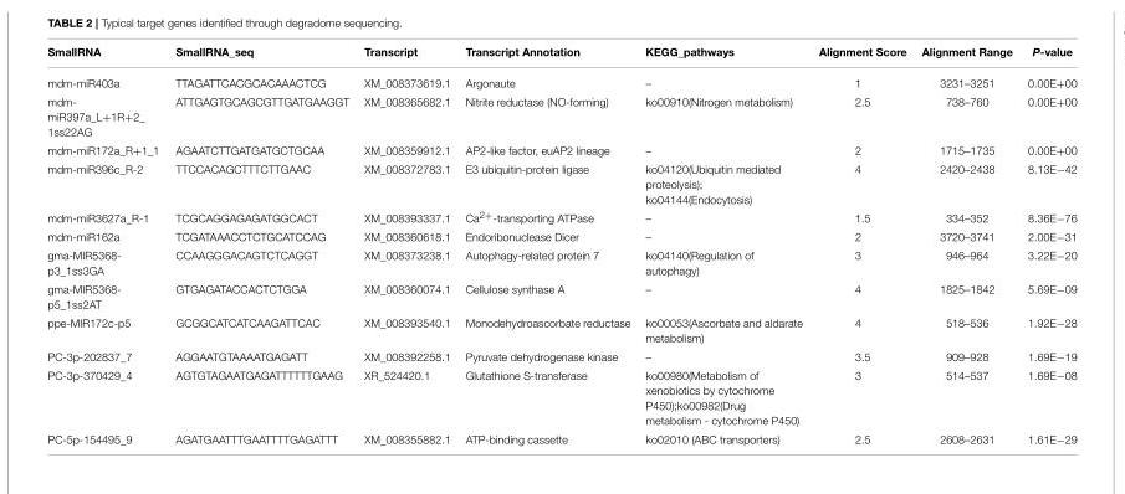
<table><thead><tr><td>SmallRNA</td><td>SmallRNA_seq</td><td>Transcript</td><td>Transcript Annotation</td><td>KEGG_pathways</td><td>Alignment Score</td><td>Alignment Range</td><td>P-value</td></tr></thead><tbody><tr><td>mdm-miR403a</td><td>TTAGATTCACGCACAAACTCG</td><td>XM_008373619.1</td><td>Argonaute</td><td>–</td><td>1</td><td>3231–3251</td><td>0.00E+00</td></tr><tr><td>mdm- miR397a_L+1R+2_ 1ss22AG</td><td>ATTGAGTGCAGCGTTGATGAAGGT</td><td>XM_008365682.1</td><td>Nitrite reductase (NO-forming)</td><td>ko00910(Nitrogen metabolism)</td><td>2.5</td><td>738–760</td><td>0.00E+00</td></tr><tr><td>mdm-miR172a_R+1_1</td><td>AGAATCTTGATGATGCTGCAA</td><td>XM_008359912.1</td><td>AP2-like factor, euAP2 lineage</td><td>–</td><td>2</td><td>1715–1735</td><td>0.00E+00</td></tr><tr><td>mdm-miR396c_R-2</td><td>TTCCACAGCTTTCTTGAAC</td><td>XM_008372783.1</td><td>E3 ubiquitin-protein ligase</td><td>ko04120(Ubiquitin mediated proteolysis); ko04144(Endocytosis)</td><td>4</td><td>2420–2438</td><td>8.13E−42</td></tr><tr><td>mdm-miR3627a_R-1</td><td>TCGCAGGAGAGATGGCACT</td><td>XM_008393337.1</td><td>Ca<sup>2+</sup>-transporting ATPase</td><td>–</td><td>1.5</td><td>334–352</td><td>8.36E−76</td></tr><tr><td>mdm-miR162a</td><td>TCGATAAACCTCTGCATCCAG</td><td>XM_008360618.1</td><td>Endoribonuclease Dicer</td><td>–</td><td>2</td><td>3720–3741</td><td>2.00E−31</td></tr><tr><td>gma-MIR5368- p3_1ss3GA</td><td>CCAAGGGACAGTCTCAGGT</td><td>XM_008373238.1</td><td>Autophagy-related protein 7</td><td>ko04140(Regulation of autophagy)</td><td>3</td><td>946–964</td><td>3.22E−20</td></tr><tr><td>gma-MIR5368- p5_1ss2AT</td><td>GTGAGATACCACTCTGGA</td><td>XM_008360074.1</td><td>Cellulose synthase A</td><td>–</td><td>4</td><td>1825–1842</td><td>5.69E−09</td></tr><tr><td>ppe-MIR172c-p5</td><td>GCGGCATCATCAAGATTCAC</td><td>XM_008393540.1</td><td>Monodehydroascorbate reductase</td><td>ko00053(Ascorbate and aldarate metabolism)</td><td>4</td><td>518–536</td><td>1.92E−28</td></tr><tr><td>PC-3p-202837_7</td><td>AGGAATGTAAAATGAGATT</td><td>XM_008392258.1</td><td>Pyruvate dehydrogenase kinase</td><td>–</td><td>3.5</td><td>909–928</td><td>1.69E−19</td></tr><tr><td>PC-3p-370429_4</td><td>AGTGTAGAATGAGATTTTTTGAAG</td><td>XR_524420.1</td><td>Glutathione S-transferase</td><td>ko00980(Metabolism of xenobiotics by cytochrome P450);ko00982(Drug metabolism - cytochrome P450)</td><td>3</td><td>514–537</td><td>1.69E−08</td></tr><tr><td>PC-5p-154495_9</td><td>AGATGAATTTGAATTTTGAGATTT</td><td>XM_008355882.1</td><td>ATP-binding cassette</td><td>ko02010 (ABC transporters)</td><td>2.5</td><td>2608–2631</td><td>1.61E−29</td></tr></tbody></table>